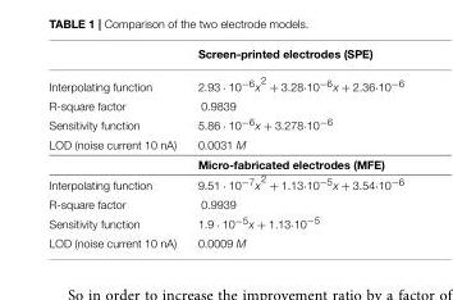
<table><thead><tr><td></td><td>Screen-printed electrodes (SPE)</td></tr></thead><tbody><tr><td>Interpolating function</td><td>2.93 · 10<sup>−6</sup>x2 + 3.28·10<sup>−6</sup>x + 2.36·10<sup>−6</sup></td></tr><tr><td>R-square factor</td><td>0.9839</td></tr><tr><td>Sensitivity function</td><td>5.86 · 10<sup>−6</sup>x + 3.278·10<sup>−6</sup></td></tr><tr><td rowspan="2">LOD (noise current 10 nA)</td><td>0.0031 M</td></tr><tr><td>Micro-fabricated electrodes (MFE)</td></tr><tr><td>Interpolating function</td><td>9.51 · 10<sup>−7</sup>x2 + 1.13·10<sup>−5</sup>x + 3.54·10<sup>−6</sup></td></tr><tr><td>R-square factor</td><td>0.9939</td></tr><tr><td>Sensitivity function</td><td>1.9 · 10<sup>−5</sup>x + 1.13·10<sup>−5</sup></td></tr><tr><td>LOD (noise current 10 nA)</td><td>0.0009 M</td></tr></tbody></table>